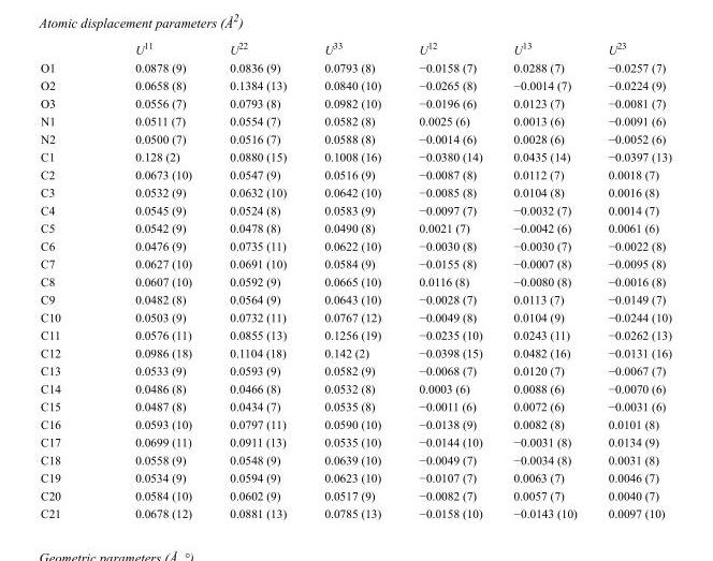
<table><thead><tr><td></td><td>U<sup>11</sup></td><td>U<sup>22</sup></td><td>U<sup>33</sup></td><td>U<sup>12</sup></td><td>U<sup>13</sup></td><td>U<sup>23</sup></td></tr></thead><tbody><tr><td>O1</td><td>0.0878 (9)</td><td>0.0836 (9)</td><td>0.0793 (8)</td><td>−0.0158 (7)</td><td>0.0288 (7)</td><td>−0.0257 (7)</td></tr><tr><td>O2</td><td>0.0658 (8)</td><td>0.1384 (13)</td><td>0.0840 (10)</td><td>−0.0265 (8)</td><td>−0.0014 (7)</td><td>−0.0224 (9)</td></tr><tr><td>O3</td><td>0.0556 (7)</td><td>0.0793 (8)</td><td>0.0982 (10)</td><td>−0.0196 (6)</td><td>0.0123 (7)</td><td>−0.0081 (7)</td></tr><tr><td>N1</td><td>0.0511 (7)</td><td>0.0554 (7)</td><td>0.0582 (8)</td><td>0.0025 (6)</td><td>0.0013 (6)</td><td>−0.0091 (6)</td></tr><tr><td>N2</td><td>0.0500 (7)</td><td>0.0516 (7)</td><td>0.0588 (8)</td><td>−0.0014 (6)</td><td>0.0028 (6)</td><td>−0.0052 (6)</td></tr><tr><td>C1</td><td>0.128 (2)</td><td>0.0880 (15)</td><td>0.1008 (16)</td><td>−0.0380 (14)</td><td>0.0435 (14)</td><td>−0.0397 (13)</td></tr><tr><td>C2</td><td>0.0673 (10)</td><td>0.0547 (9)</td><td>0.0516 (9)</td><td>−0.0087 (8)</td><td>0.0112 (7)</td><td>0.0018 (7)</td></tr><tr><td>C3</td><td>0.0532 (9)</td><td>0.0632 (10)</td><td>0.0642 (10)</td><td>−0.0085 (8)</td><td>0.0104 (8)</td><td>0.0016 (8)</td></tr><tr><td>C4</td><td>0.0545 (9)</td><td>0.0524 (8)</td><td>0.0583 (9)</td><td>−0.0097 (7)</td><td>−0.0032 (7)</td><td>0.0014 (7)</td></tr><tr><td>C5</td><td>0.0542 (9)</td><td>0.0478 (8)</td><td>0.0490 (8)</td><td>0.0021 (7)</td><td>−0.0042 (6)</td><td>0.0061 (6)</td></tr><tr><td>C6</td><td>0.0476 (9)</td><td>0.0735 (11)</td><td>0.0622 (10)</td><td>−0.0030 (8)</td><td>−0.0030 (7)</td><td>−0.0022 (8)</td></tr><tr><td>C7</td><td>0.0627 (10)</td><td>0.0691 (10)</td><td>0.0584 (9)</td><td>−0.0155 (8)</td><td>−0.0007 (8)</td><td>−0.0095 (8)</td></tr><tr><td>C8</td><td>0.0607 (10)</td><td>0.0592 (9)</td><td>0.0665 (10)</td><td>0.0116 (8)</td><td>−0.0080 (8)</td><td>−0.0016 (8)</td></tr><tr><td>C9</td><td>0.0482 (8)</td><td>0.0564 (9)</td><td>0.0643 (10)</td><td>−0.0028 (7)</td><td>0.0113 (7)</td><td>−0.0149 (7)</td></tr><tr><td>C10</td><td>0.0503 (9)</td><td>0.0732 (11)</td><td>0.0767 (12)</td><td>−0.0049 (8)</td><td>0.0104 (9)</td><td>−0.0244 (10)</td></tr><tr><td>C11</td><td>0.0576 (11)</td><td>0.0855 (13)</td><td>0.1256 (19)</td><td>−0.0235 (10)</td><td>0.0243 (11)</td><td>−0.0262 (13)</td></tr><tr><td>C12</td><td>0.0986 (18)</td><td>0.1104 (18)</td><td>0.142 (2)</td><td>−0.0398 (15)</td><td>0.0482 (16)</td><td>−0.0131 (16)</td></tr><tr><td>C13</td><td>0.0533 (9)</td><td>0.0593 (9)</td><td>0.0582 (9)</td><td>−0.0068 (7)</td><td>0.0120 (7)</td><td>−0.0067 (7)</td></tr><tr><td>C14</td><td>0.0486 (8)</td><td>0.0466 (8)</td><td>0.0532 (8)</td><td>0.0003 (6)</td><td>0.0088 (6)</td><td>−0.0070 (6)</td></tr><tr><td>C15</td><td>0.0487 (8)</td><td>0.0434 (7)</td><td>0.0535 (8)</td><td>−0.0011 (6)</td><td>0.0072 (6)</td><td>−0.0031 (6)</td></tr><tr><td>C16</td><td>0.0593 (10)</td><td>0.0797 (11)</td><td>0.0590 (10)</td><td>−0.0138 (9)</td><td>0.0082 (8)</td><td>0.0101 (8)</td></tr><tr><td>C17</td><td>0.0699 (11)</td><td>0.0911 (13)</td><td>0.0535 (10)</td><td>−0.0144 (10)</td><td>−0.0031 (8)</td><td>0.0134 (9)</td></tr><tr><td>C18</td><td>0.0558 (9)</td><td>0.0548 (9)</td><td>0.0639 (10)</td><td>−0.0049 (7)</td><td>−0.0034 (8)</td><td>0.0031 (8)</td></tr><tr><td>C19</td><td>0.0534 (9)</td><td>0.0594 (9)</td><td>0.0623 (10)</td><td>−0.0107 (7)</td><td>0.0063 (7)</td><td>0.0046 (7)</td></tr><tr><td>C20</td><td>0.0584 (10)</td><td>0.0602 (9)</td><td>0.0517 (9)</td><td>−0.0082 (7)</td><td>0.0057 (7)</td><td>0.0040 (7)</td></tr><tr><td>C21</td><td>0.0678 (12)</td><td>0.0881 (13)</td><td>0.0785 (13)</td><td>−0.0158 (10)</td><td>−0.0143 (10)</td><td>0.0097 (10)</td></tr></tbody></table>